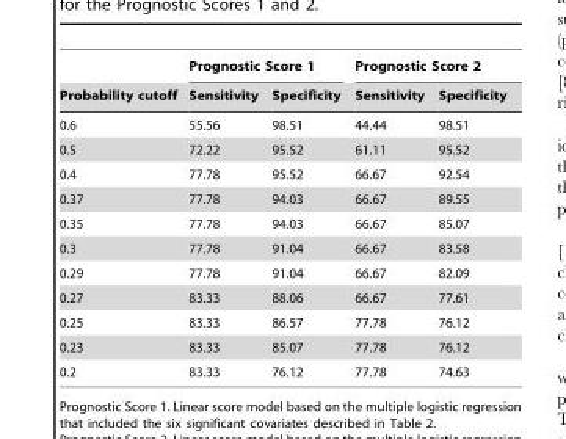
<table><thead><tr><td rowspan="2">Probability cutoff</td><td colspan="2">Prognostic Score 1</td><td colspan="2">Prognostic Score 2</td></tr><tr><td>Sensitivity</td><td>Specificity</td><td>Sensitivity</td><td>Specificity</td></tr></thead><tbody><tr><td>0.6</td><td>55.56</td><td>98.51</td><td>44.44</td><td>98.51</td></tr><tr><td>0.5</td><td>72.22</td><td>95.52</td><td>61.11</td><td>95.52</td></tr><tr><td>0.4</td><td>77.78</td><td>95.52</td><td>66.67</td><td>92.54</td></tr><tr><td>0.37</td><td>77.78</td><td>94.03</td><td>66.67</td><td>89.55</td></tr><tr><td>0.35</td><td>77.78</td><td>94.03</td><td>66.67</td><td>85.07</td></tr><tr><td>0.3</td><td>77.78</td><td>91.04</td><td>66.67</td><td>83.58</td></tr><tr><td>0.29</td><td>77.78</td><td>91.04</td><td>66.67</td><td>82.09</td></tr><tr><td>0.27</td><td>83.33</td><td>88.06</td><td>66.67</td><td>77.61</td></tr><tr><td>0.25</td><td>83.33</td><td>86.57</td><td>77.78</td><td>76.12</td></tr><tr><td>0.23</td><td>83.33</td><td>85.07</td><td>77.78</td><td>76.12</td></tr><tr><td>0.2</td><td>83.33</td><td>76.12</td><td>77.78</td><td>74.63</td></tr></tbody></table>